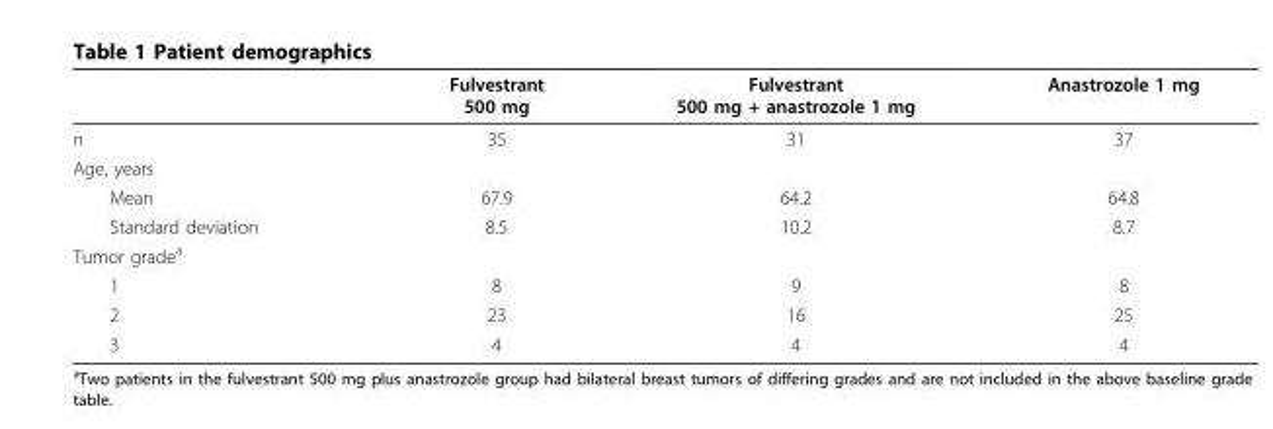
<table><thead><tr><td></td><td>Fulvestrant 500 mg</td><td>Fulvestrant 500 mg + anastrozole 1 mg</td><td>Anastrozole 1 mg</td></tr></thead><tbody><tr><td>n</td><td>35</td><td>31</td><td>37</td></tr><tr><td colspan="4">Age, years</td></tr><tr><td>Mean</td><td>67.9</td><td>64.2</td><td>64.8</td></tr><tr><td>Standard deviation</td><td>8.5</td><td>10.2</td><td>8.7</td></tr><tr><td colspan="4">Tumor grade<sup>a</sup></td></tr><tr><td>1</td><td>8</td><td>9</td><td>8</td></tr><tr><td>2</td><td>23</td><td>16</td><td>25</td></tr><tr><td>3</td><td>4</td><td>4</td><td>4</td></tr></tbody></table>